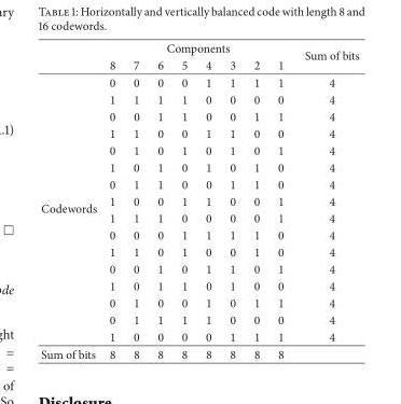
<table><thead><tr><td rowspan="2"></td><td colspan="8">Components</td><td rowspan="2">Sum of bits</td></tr><tr><td>8</td><td>7</td><td>6</td><td>5</td><td>4</td><td>3</td><td>2</td><td>1</td></tr></thead><tbody><tr><td rowspan="16">Codewords</td><td>0</td><td>0</td><td>0</td><td>0</td><td>1</td><td>1</td><td>1</td><td>1</td><td>4</td></tr><tr><td>1</td><td>1</td><td>1</td><td>1</td><td>0</td><td>0</td><td>0</td><td>0</td><td>4</td></tr><tr><td>0</td><td>0</td><td>1</td><td>1</td><td>0</td><td>0</td><td>1</td><td>1</td><td>4</td></tr><tr><td>1</td><td>1</td><td>0</td><td>0</td><td>1</td><td>1</td><td>0</td><td>0</td><td>4</td></tr><tr><td>0</td><td>1</td><td>0</td><td>1</td><td>0</td><td>1</td><td>0</td><td>1</td><td>4</td></tr><tr><td>1</td><td>0</td><td>1</td><td>0</td><td>1</td><td>0</td><td>1</td><td>0</td><td>4</td></tr><tr><td>0</td><td>1</td><td>1</td><td>0</td><td>0</td><td>1</td><td>1</td><td>0</td><td>4</td></tr><tr><td>1</td><td>0</td><td>0</td><td>1</td><td>1</td><td>0</td><td>0</td><td>1</td><td>4</td></tr><tr><td>1</td><td>1</td><td>1</td><td>0</td><td>0</td><td>0</td><td>0</td><td>1</td><td>4</td></tr><tr><td>0</td><td>0</td><td>0</td><td>1</td><td>1</td><td>1</td><td>1</td><td>0</td><td>4</td></tr><tr><td>1</td><td>1</td><td>0</td><td>1</td><td>0</td><td>0</td><td>1</td><td>0</td><td>4</td></tr><tr><td>0</td><td>0</td><td>1</td><td>0</td><td>1</td><td>1</td><td>0</td><td>1</td><td>4</td></tr><tr><td>1</td><td>0</td><td>1</td><td>1</td><td>0</td><td>1</td><td>0</td><td>0</td><td>4</td></tr><tr><td>0</td><td>1</td><td>0</td><td>0</td><td>1</td><td>0</td><td>1</td><td>1</td><td>4</td></tr><tr><td>0</td><td>1</td><td>1</td><td>1</td><td>1</td><td>0</td><td>0</td><td>0</td><td>4</td></tr><tr><td>1</td><td>0</td><td>0</td><td>0</td><td>0</td><td>1</td><td>1</td><td>1</td><td>4</td></tr><tr><td>Sum of bits</td><td>8</td><td>8</td><td>8</td><td>8</td><td>8</td><td>8</td><td>8</td><td>8</td><td></td></tr></tbody></table>